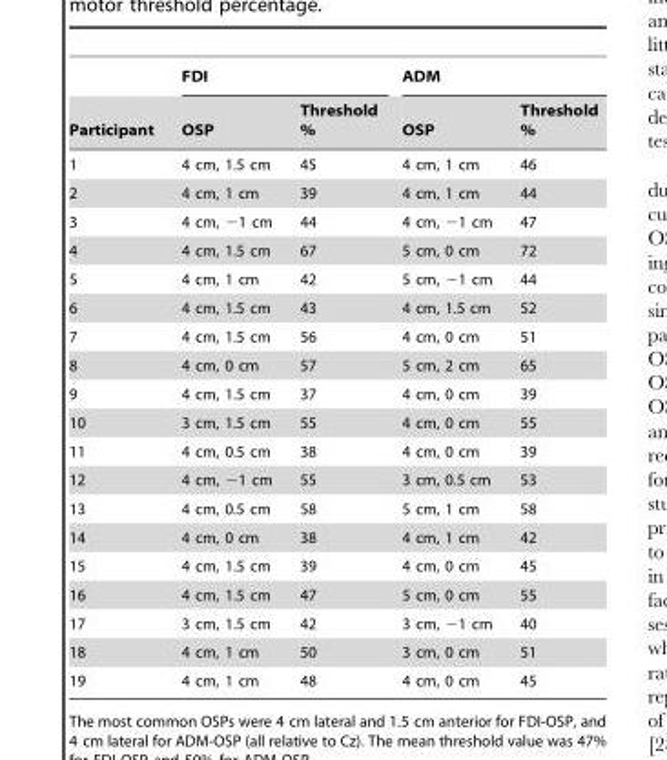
<table><thead><tr><td rowspan="2">Participant</td><td colspan="2">FDI</td><td colspan="2">ADM</td></tr><tr><td>OSP</td><td>Threshold %</td><td>OSP</td><td>Threshold %</td></tr></thead><tbody><tr><td>1</td><td>4 cm, 1.5 cm</td><td>45</td><td>4 cm, 1 cm</td><td>46</td></tr><tr><td>2</td><td>4 cm, 1 cm</td><td>39</td><td>4 cm, 1 cm</td><td>44</td></tr><tr><td>3</td><td>4 cm, −1 cm</td><td>44</td><td>4 cm, −1 cm</td><td>47</td></tr><tr><td>4</td><td>4 cm, 1.5 cm</td><td>67</td><td>5 cm, 0 cm</td><td>72</td></tr><tr><td>5</td><td>4 cm, 1 cm</td><td>42</td><td>5 cm, −1 cm</td><td>44</td></tr><tr><td>6</td><td>4 cm, 1.5 cm</td><td>43</td><td>4 cm, 1.5 cm</td><td>52</td></tr><tr><td>7</td><td>4 cm, 1.5 cm</td><td>56</td><td>4 cm, 0 cm</td><td>51</td></tr><tr><td>8</td><td>4 cm, 0 cm</td><td>57</td><td>5 cm, 2 cm</td><td>65</td></tr><tr><td>9</td><td>4 cm, 1.5 cm</td><td>37</td><td>4 cm, 0 cm</td><td>39</td></tr><tr><td>10</td><td>3 cm, 1.5 cm</td><td>55</td><td>4 cm, 0 cm</td><td>55</td></tr><tr><td>11</td><td>4 cm, 0.5 cm</td><td>38</td><td>4 cm, 0 cm</td><td>39</td></tr><tr><td>12</td><td>4 cm, −1 cm</td><td>55</td><td>3 cm, 0.5 cm</td><td>53</td></tr><tr><td>13</td><td>4 cm, 0.5 cm</td><td>58</td><td>5 cm, 1 cm</td><td>58</td></tr><tr><td>14</td><td>4 cm, 0 cm</td><td>38</td><td>4 cm, 1 cm</td><td>42</td></tr><tr><td>15</td><td>4 cm, 1.5 cm</td><td>39</td><td>4 cm, 0 cm</td><td>45</td></tr><tr><td>16</td><td>4 cm, 1.5 cm</td><td>47</td><td>5 cm, 0 cm</td><td>55</td></tr><tr><td>17</td><td>3 cm, 1.5 cm</td><td>42</td><td>3 cm, −1 cm</td><td>40</td></tr><tr><td>18</td><td>4 cm, 1 cm</td><td>50</td><td>3 cm, 0 cm</td><td>51</td></tr><tr><td>19</td><td>4 cm, 1 cm</td><td>48</td><td>4 cm, 0 cm</td><td>45</td></tr></tbody></table>